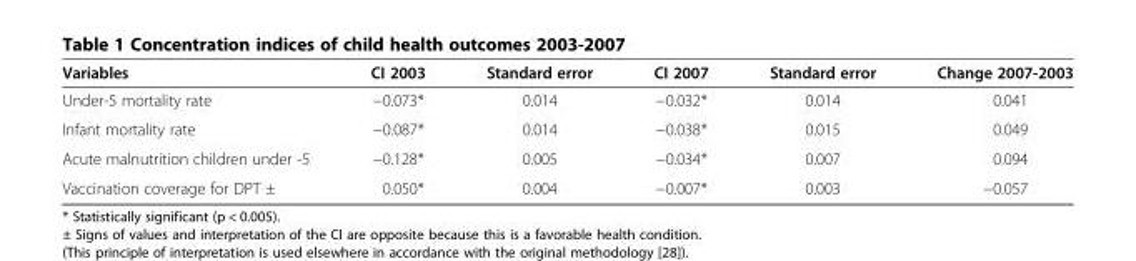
<table><thead><tr><td>Variables</td><td>CI 2003</td><td>Standard error</td><td>CI 2007</td><td>Standard error</td><td>Change 2007-2003</td></tr></thead><tbody><tr><td>Under-5 mortality rate</td><td>−0.073*</td><td>0.014</td><td>−0.032*</td><td>0.014</td><td>0.041</td></tr><tr><td>Infant mortality rate</td><td>−0.087*</td><td>0.014</td><td>−0.038*</td><td>0.015</td><td>0.049</td></tr><tr><td>Acute malnutrition children under -5</td><td>−0.128*</td><td>0.005</td><td>−0.034*</td><td>0.007</td><td>0.094</td></tr><tr><td>Vaccination coverage for DPT ±</td><td>0.050*</td><td>0.004</td><td>−0.007*</td><td>0.003</td><td>−0.057</td></tr></tbody></table>